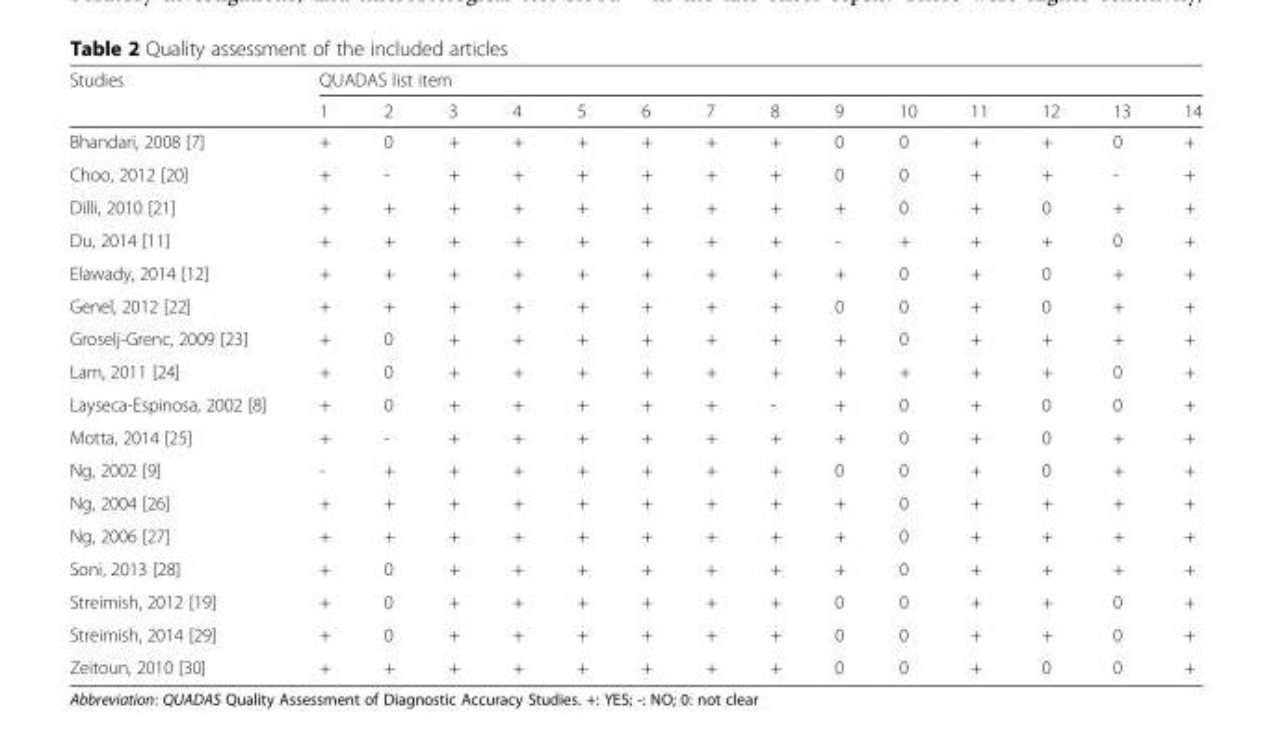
<table><thead><tr><td rowspan="2">Studies</td><td colspan="14">QUADAS list item</td></tr><tr><td>1</td><td>2</td><td>3</td><td>4</td><td>5</td><td>6</td><td>7</td><td>8</td><td>9</td><td>10</td><td>11</td><td>12</td><td>13</td><td>14</td></tr></thead><tbody><tr><td>Bhandari, 2008 [7]</td><td>+</td><td>0</td><td>+</td><td>+</td><td>+</td><td>+</td><td>+</td><td>+</td><td>0</td><td>0</td><td>+</td><td>+</td><td>0</td><td>+</td></tr><tr><td>Choo, 2012 [20]</td><td>+</td><td>-</td><td>+</td><td>+</td><td>+</td><td>+</td><td>+</td><td>+</td><td>0</td><td>0</td><td>+</td><td>+</td><td>-</td><td>+</td></tr><tr><td>Dilli, 2010 [21]</td><td>+</td><td>+</td><td>+</td><td>+</td><td>+</td><td>+</td><td>+</td><td>+</td><td>+</td><td>0</td><td>+</td><td>0</td><td>+</td><td>+</td></tr><tr><td>Du, 2014 [11]</td><td>+</td><td>+</td><td>+</td><td>+</td><td>+</td><td>+</td><td>+</td><td>+</td><td>-</td><td>+</td><td>+</td><td>+</td><td>0</td><td>+</td></tr><tr><td>Elawady, 2014 [12]</td><td>+</td><td>+</td><td>+</td><td>+</td><td>+</td><td>+</td><td>+</td><td>+</td><td>+</td><td>0</td><td>+</td><td>0</td><td>+</td><td>+</td></tr><tr><td>Genel, 2012 [22]</td><td>+</td><td>+</td><td>+</td><td>+</td><td>+</td><td>+</td><td>+</td><td>+</td><td>0</td><td>0</td><td>+</td><td>0</td><td>+</td><td>+</td></tr><tr><td>Groselj-Grenc, 2009 [23]</td><td>+</td><td>0</td><td>+</td><td>+</td><td>+</td><td>+</td><td>+</td><td>+</td><td>+</td><td>0</td><td>+</td><td>+</td><td>+</td><td>+</td></tr><tr><td>Lam, 2011 [24]</td><td>+</td><td>0</td><td>+</td><td>+</td><td>+</td><td>+</td><td>+</td><td>+</td><td>+</td><td>+</td><td>+</td><td>+</td><td>0</td><td>+</td></tr><tr><td>Layseca-Espinosa, 2002 [8]</td><td>+</td><td>0</td><td>+</td><td>+</td><td>+</td><td>+</td><td>+</td><td>-</td><td>+</td><td>0</td><td>+</td><td>0</td><td>0</td><td>+</td></tr><tr><td>Motta, 2014 [25]</td><td>+</td><td>-</td><td>+</td><td>+</td><td>+</td><td>+</td><td>+</td><td>+</td><td>+</td><td>0</td><td>+</td><td>0</td><td>+</td><td>+</td></tr><tr><td>Ng, 2002 [9]</td><td>-</td><td>+</td><td>+</td><td>+</td><td>+</td><td>+</td><td>+</td><td>+</td><td>0</td><td>0</td><td>+</td><td>0</td><td>+</td><td>+</td></tr><tr><td>Ng, 2004 [26]</td><td>+</td><td>+</td><td>+</td><td>+</td><td>+</td><td>+</td><td>+</td><td>+</td><td>+</td><td>0</td><td>+</td><td>+</td><td>+</td><td>+</td></tr><tr><td>Ng, 2006 [27]</td><td>+</td><td>+</td><td>+</td><td>+</td><td>+</td><td>+</td><td>+</td><td>+</td><td>+</td><td>0</td><td>+</td><td>+</td><td>+</td><td>+</td></tr><tr><td>Soni, 2013 [28]</td><td>+</td><td>0</td><td>+</td><td>+</td><td>+</td><td>+</td><td>+</td><td>+</td><td>+</td><td>0</td><td>+</td><td>+</td><td>+</td><td>+</td></tr><tr><td>Streimish, 2012 [19]</td><td>+</td><td>0</td><td>+</td><td>+</td><td>+</td><td>+</td><td>+</td><td>+</td><td>0</td><td>0</td><td>+</td><td>+</td><td>0</td><td>+</td></tr><tr><td>Streimish, 2014 [29]</td><td>+</td><td>0</td><td>+</td><td>+</td><td>+</td><td>+</td><td>+</td><td>+</td><td>0</td><td>0</td><td>+</td><td>+</td><td>0</td><td>+</td></tr><tr><td>Zeitoun, 2010 [30]</td><td>+</td><td>+</td><td>+</td><td>+</td><td>+</td><td>+</td><td>+</td><td>+</td><td>0</td><td>0</td><td>+</td><td>0</td><td>0</td><td>+</td></tr></tbody></table>